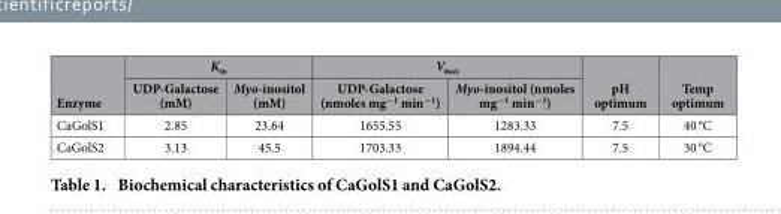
<table><thead><tr><td rowspan="2">Enzyme</td><td colspan="2">K<sub>m</sub></td><td colspan="2">V<sub>max</sub></td><td rowspan="2">pH optimum</td><td rowspan="2">Temp optimum</td></tr><tr><td>UDP-Galactose (mM)</td><td>Myo-inositol (mM)</td><td>UDP-Galactose (nmoles mg<sup>−1</sup> min<sup>−1</sup>)</td><td>Myo-inositol (nmoles mg<sup>−1</sup> min<sup>−1</sup>)</td></tr></thead><tbody><tr><td>CaGolS1</td><td>2.85</td><td>23.64</td><td>1655.55</td><td>1283.33</td><td>7.5</td><td>40 °C</td></tr><tr><td>CaGolS2</td><td>3.13</td><td>45.5</td><td>1703.33</td><td>1894.44</td><td>7.5</td><td>30 °C</td></tr></tbody></table>